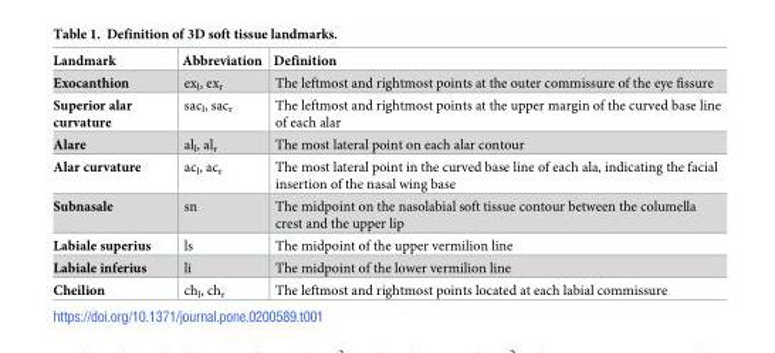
<table><thead><tr><td>Landmark</td><td>Abbreviation</td><td>Definition</td></tr></thead><tbody><tr><td>Exocanthion</td><td>ex<sub>l</sub>, ex<sub>r</sub></td><td>The leftmost and rightmost points at the outer commissure of the eye fissure</td></tr><tr><td>Superior alar curvature</td><td>sac<sub>l</sub>, sac<sub>r</sub></td><td>The leftmost and rightmost points at the upper margin of the curved base line of each alar</td></tr><tr><td>Alare</td><td>al<sub>l</sub>, al<sub>r</sub></td><td>The most lateral point on each alar contour</td></tr><tr><td>Alar curvature</td><td>ac<sub>l</sub>, ac<sub>r</sub></td><td>The most lateral point in the curved base line of each ala, indicating the facial insertion of the nasal wing base</td></tr><tr><td>Subnasale</td><td>sn</td><td>The midpoint on the nasolabial soft tissue contour between the columella crest and the upper lip</td></tr><tr><td>Labiale superius</td><td>ls</td><td>The midpoint of the upper vermilion line</td></tr><tr><td>Labiale inferius</td><td>li</td><td>The midpoint of the lower vermilion line</td></tr><tr><td>Cheilion</td><td>ch<sub>l</sub>, ch<sub>r</sub></td><td>The leftmost and rightmost points located at each labial commissure</td></tr></tbody></table>